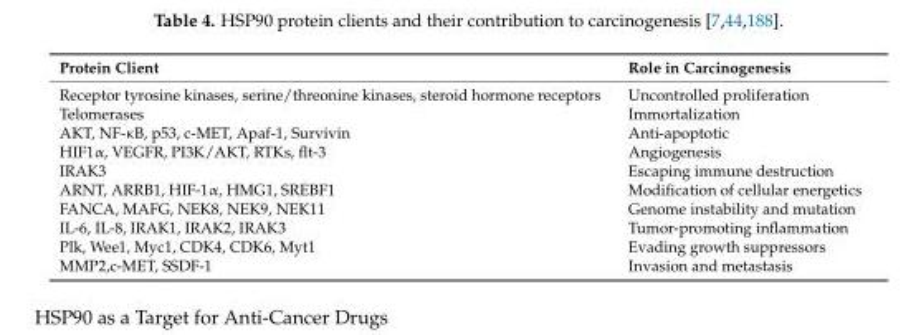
<table><thead><tr><td>Protein Client</td><td>Role in Carcinogenesis</td></tr></thead><tbody><tr><td>Receptor tyrosine kinases, serine/threonine kinases, steroid hormone receptors</td><td>Uncontrolled proliferation</td></tr><tr><td>Telomerases</td><td>Immortalization</td></tr><tr><td>AKT, NF-κB, p53, c-MET, Apaf-1, Survivin</td><td>Anti-apoptotic</td></tr><tr><td>HIF1α, VEGFR, PI3K/AKT, RTKs, flt-3</td><td>Angiogenesis</td></tr><tr><td>IRAK3</td><td>Escaping immune destruction</td></tr><tr><td>ARNT, ARRB1, HIF-1α, HMG1, SREBF1</td><td>Modification of cellular energetics</td></tr><tr><td>FANCA, MAFG, NEK8, NEK9, NEK11</td><td>Genome instability and mutation</td></tr><tr><td>IL-6, IL-8, IRAK1, IRAK2, IRAK3</td><td>Tumor-promoting inflammation</td></tr><tr><td>Plk, Wee1, Myc1, CDK4, CDK6, Myt1</td><td>Evading growth suppressors</td></tr><tr><td>MMP2,c-MET, SSDF-1</td><td>Invasion and metastasis</td></tr></tbody></table>